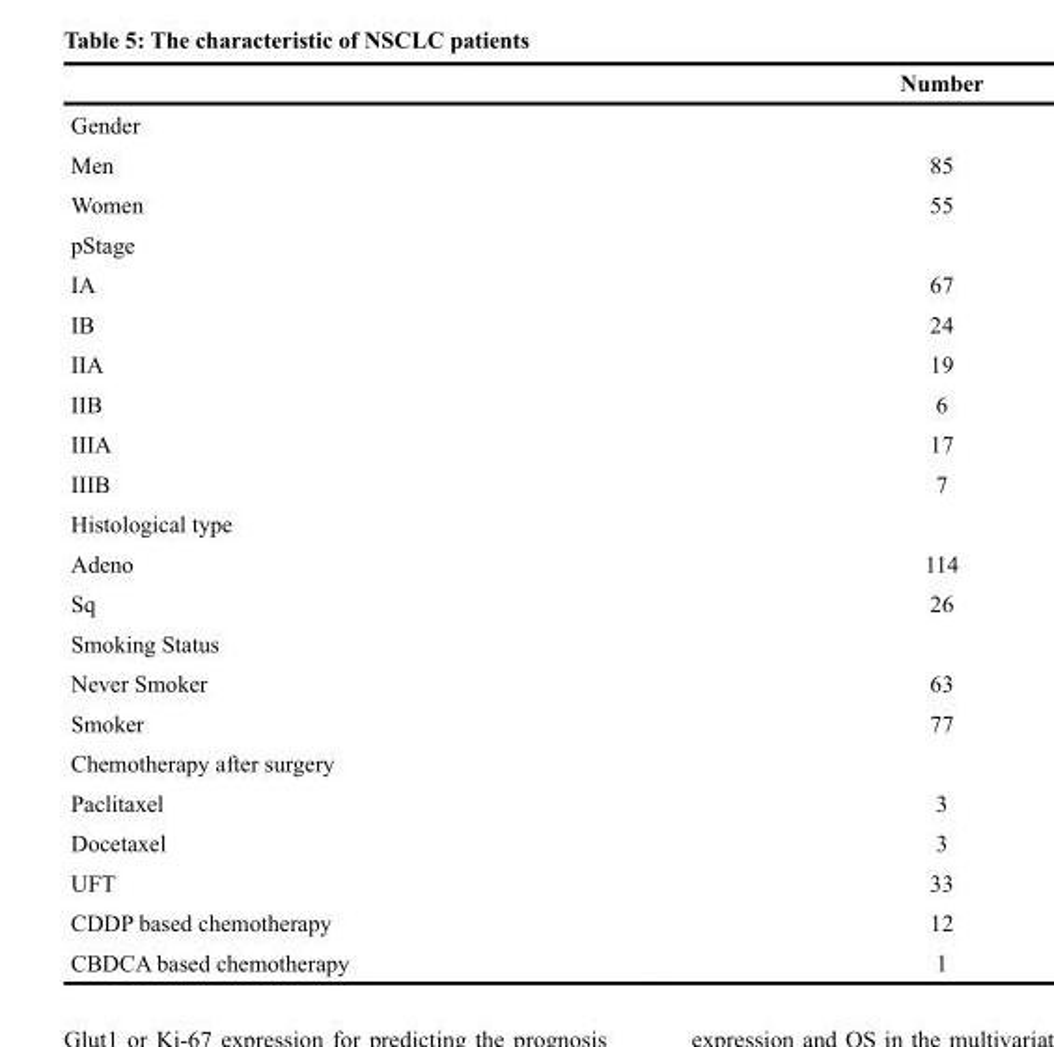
<table><thead><tr><td></td><td>Number</td></tr></thead><tbody><tr><td colspan="2">Gender</td></tr><tr><td>Men</td><td>85</td></tr><tr><td>Women</td><td>55</td></tr><tr><td colspan="2">pStage</td></tr><tr><td>IA</td><td>67</td></tr><tr><td>IB</td><td>24</td></tr><tr><td>IIA</td><td>19</td></tr><tr><td>IIB</td><td>6</td></tr><tr><td>IIIA</td><td>17</td></tr><tr><td>IIIB</td><td>7</td></tr><tr><td colspan="2">Histological type</td></tr><tr><td>Adeno</td><td>114</td></tr><tr><td>Sq</td><td>26</td></tr><tr><td colspan="2">Smoking Status</td></tr><tr><td>Never Smoker</td><td>63</td></tr><tr><td>Smoker</td><td>77</td></tr><tr><td colspan="2">Chemotherapy after surgery</td></tr><tr><td>Paclitaxel</td><td>3</td></tr><tr><td>Docetaxel</td><td>3</td></tr><tr><td>UFT</td><td>33</td></tr><tr><td>CDDP based chemotherapy</td><td>12</td></tr><tr><td>CBDCA based chemotherapy</td><td>1</td></tr></tbody></table>